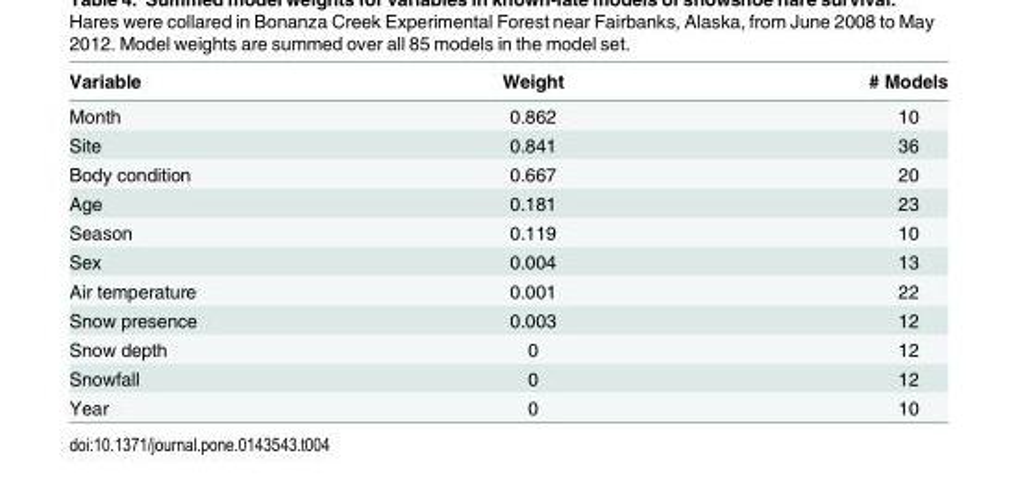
<table><thead><tr><td>Variable</td><td>Weight</td><td># Models</td></tr></thead><tbody><tr><td>Month</td><td>0.862</td><td>10</td></tr><tr><td>Site</td><td>0.841</td><td>36</td></tr><tr><td>Body condition</td><td>0.667</td><td>20</td></tr><tr><td>Age</td><td>0.181</td><td>23</td></tr><tr><td>Season</td><td>0.119</td><td>10</td></tr><tr><td>Sex</td><td>0.004</td><td>13</td></tr><tr><td>Air temperature</td><td>0.001</td><td>22</td></tr><tr><td>Snow presence</td><td>0.003</td><td>12</td></tr><tr><td>Snow depth</td><td>0</td><td>12</td></tr><tr><td>Snowfall</td><td>0</td><td>12</td></tr><tr><td>Year</td><td>0</td><td>10</td></tr></tbody></table>